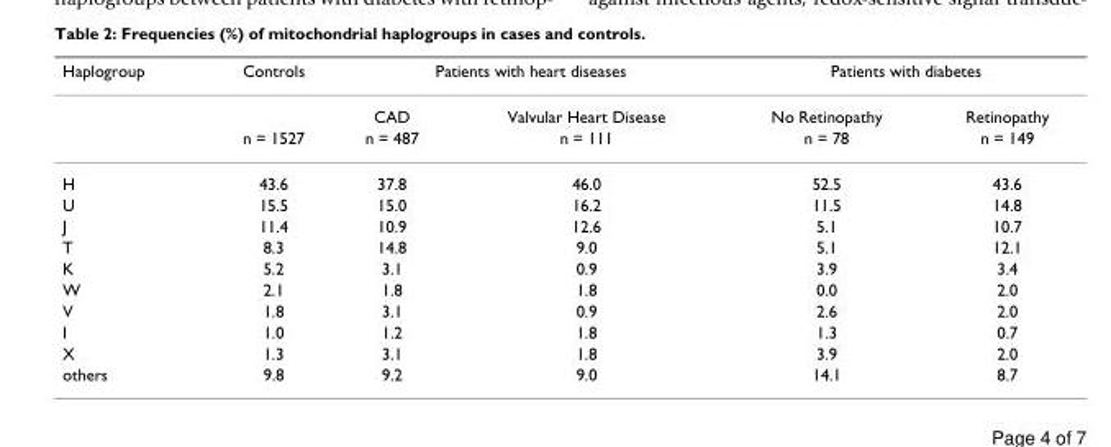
<table><thead><tr><td rowspan="2">Haplogroup</td><td rowspan="2">Controls</td><td colspan="2">Patients with heart diseases</td><td colspan="2">Patients with diabetes</td></tr><tr><td>CAD</td><td>Valvular Heart Disease</td><td>No Retinopathy</td><td>Retinopathy</td></tr></thead><tbody><tr><td></td><td>n = 1527</td><td>n = 487</td><td>n = 111</td><td>n = 78</td><td>n = 149</td></tr><tr><td>H</td><td>43.6</td><td>37.8</td><td>46.0</td><td>52.5</td><td>43.6</td></tr><tr><td>U</td><td>15.5</td><td>15.0</td><td>16.2</td><td>11.5</td><td>14.8</td></tr><tr><td>J</td><td>11.4</td><td>10.9</td><td>12.6</td><td>5.1</td><td>10.7</td></tr><tr><td>T</td><td>8.3</td><td>14.8</td><td>9.0</td><td>5.1</td><td>12.1</td></tr><tr><td>K</td><td>5.2</td><td>3.1</td><td>0.9</td><td>3.9</td><td>3.4</td></tr><tr><td>W</td><td>2.1</td><td>1.8</td><td>1.8</td><td>0.0</td><td>2.0</td></tr><tr><td>V</td><td>1.8</td><td>3.1</td><td>0.9</td><td>2.6</td><td>2.0</td></tr><tr><td>I</td><td>1.0</td><td>1.2</td><td>1.8</td><td>1.3</td><td>0.7</td></tr><tr><td>X</td><td>1.3</td><td>3.1</td><td>1.8</td><td>3.9</td><td>2.0</td></tr><tr><td>others</td><td>9.8</td><td>9.2</td><td>9.0</td><td>14.1</td><td>8.7</td></tr></tbody></table>